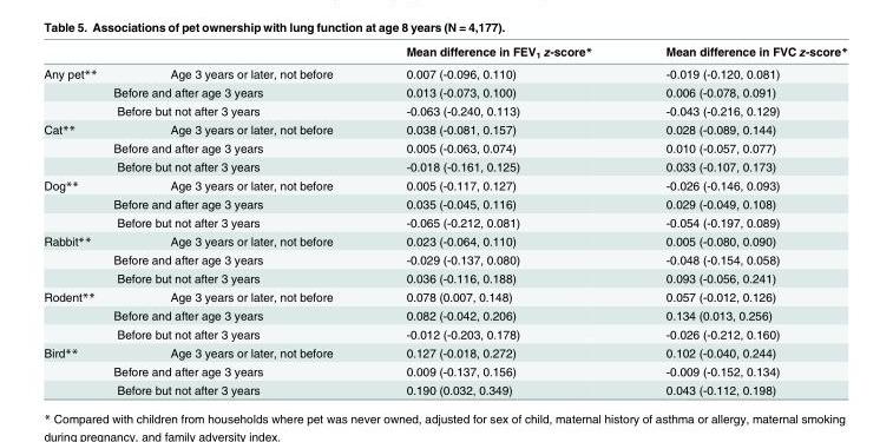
<table><thead><tr><td></td><td></td><td>Mean difference in FEV<sub>1</sub> z-score*</td><td>Mean difference in FVC z-score*</td></tr></thead><tbody><tr><td>Any pet**</td><td>Age 3 years or later, not before</td><td>0.007 (-0.096, 0.110)</td><td>-0.019 (-0.120, 0.081)</td></tr><tr><td colspan="2">Before and after age 3 years</td><td>0.013 (-0.073, 0.100)</td><td>0.006 (-0.078, 0.091)</td></tr><tr><td colspan="2">Before but not after 3 years</td><td>-0.063 (-0.240, 0.113)</td><td>-0.043 (-0.216, 0.129)</td></tr><tr><td>Cat**</td><td>Age 3 years or later, not before</td><td>0.038 (-0.081, 0.157)</td><td>0.028 (-0.089, 0.144)</td></tr><tr><td colspan="2">Before and after age 3 years</td><td>0.005 (-0.063, 0.074)</td><td>0.010 (-0.057, 0.077)</td></tr><tr><td colspan="2">Before but not after 3 years</td><td>-0.018 (-0.161, 0.125)</td><td>0.033 (-0.107, 0.173)</td></tr><tr><td>Dog**</td><td>Age 3 years or later, not before</td><td>0.005 (-0.117, 0.127)</td><td>-0.026 (-0.146, 0.093)</td></tr><tr><td colspan="2">Before and after age 3 years</td><td>0.035 (-0.045, 0.116)</td><td>0.029 (-0.049, 0.108)</td></tr><tr><td colspan="2">Before but not after 3 years</td><td>-0.065 (-0.212, 0.081)</td><td>-0.054 (-0.197, 0.089)</td></tr><tr><td>Rabbit**</td><td>Age 3 years or later, not before</td><td>0.023 (-0.064, 0.110)</td><td>0.005 (-0.080, 0.090)</td></tr><tr><td colspan="2">Before and after age 3 years</td><td>-0.029 (-0.137, 0.080)</td><td>-0.048 (-0.154, 0.058)</td></tr><tr><td colspan="2">Before but not after 3 years</td><td>0.036 (-0.116, 0.188)</td><td>0.093 (-0.056, 0.241)</td></tr><tr><td>Rodent**</td><td>Age 3 years or later, not before</td><td>0.078 (0.007, 0.148)</td><td>0.057 (-0.012, 0.126)</td></tr><tr><td colspan="2">Before and after age 3 years</td><td>0.082 (-0.042, 0.206)</td><td>0.134 (0.013, 0.256)</td></tr><tr><td colspan="2">Before but not after 3 years</td><td>-0.012 (-0.203, 0.178)</td><td>-0.026 (-0.212, 0.160)</td></tr><tr><td>Bird**</td><td>Age 3 years or later, not before</td><td>0.127 (-0.018, 0.272)</td><td>0.102 (-0.040, 0.244)</td></tr><tr><td colspan="2">Before and after age 3 years</td><td>0.009 (-0.137, 0.156)</td><td>-0.009 (-0.152, 0.134)</td></tr><tr><td colspan="2">Before but not after 3 years</td><td>0.190 (0.032, 0.349)</td><td>0.043 (-0.112, 0.198)</td></tr></tbody></table>